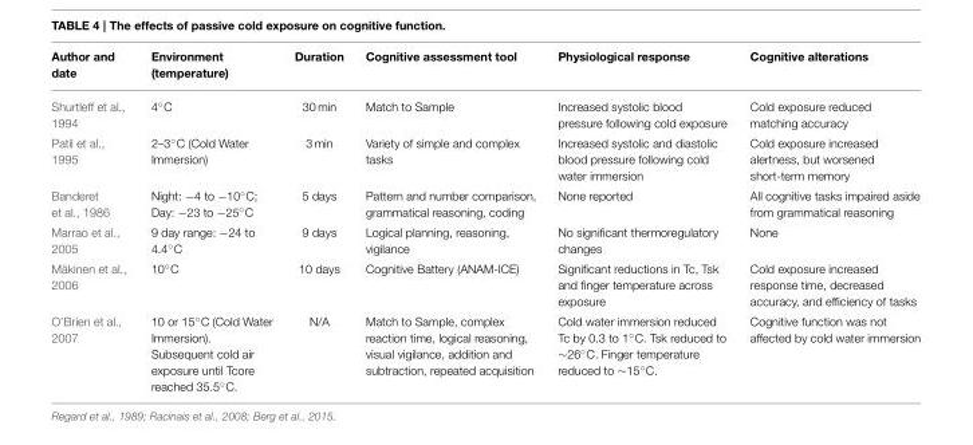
<table><thead><tr><td>Author and date</td><td>Environment (temperature)</td><td>Duration</td><td>Cognitive assessment tool</td><td>Physiological response</td><td>Cognitive alterations</td></tr></thead><tbody><tr><td>Shurtleff et al., 1994</td><td>4◦C</td><td>30 min</td><td>Match to Sample</td><td>Increased systolic blood pressure following cold exposure</td><td>Cold exposure reduced matching accuracy</td></tr><tr><td>Patil et al., 1995</td><td>2–3◦C (Cold Water Immersion)</td><td>3 min</td><td>Variety of simple and complex tasks</td><td>Increased systolic and diastolic blood pressure following cold water immersion</td><td>Cold exposure increased alertness, but worsened short-term memory</td></tr><tr><td>Banderet et al., 1986</td><td>Night: −4 to −10◦C; Day: −23 to −25◦C</td><td>5 days</td><td>Pattern and number comparison, grammatical reasoning, coding</td><td>None reported</td><td>All cognitive tasks impaired aside from grammatical reasoning</td></tr><tr><td>Marrao et al., 2005</td><td>9 day range: −24 to 4.4◦C</td><td>9 days</td><td>Logical planning, reasoning, vigilance</td><td>No significant thermoregulatory changes</td><td>None</td></tr><tr><td>Mäkinen et al., 2006</td><td>10◦C</td><td>10 days</td><td>Cognitive Battery (ANAM-ICE)</td><td>Significant reductions in Tc, Tsk and finger temperature across exposure</td><td>Cold exposure increased response time, decreased accuracy, and efficiency of tasks</td></tr><tr><td>O’Brien et al., 2007</td><td>10 or 15◦C (Cold Water Immersion). Subsequent cold air exposure until Tcore reached 35.5◦C.</td><td>N/A</td><td>Match to Sample, complex reaction time, logical reasoning, visual vigilance, addition and subtraction, repeated acquisition</td><td>Cold water immersion reduced Tc by 0.3 to 1◦C. Tsk reduced to ∼26◦C. Finger temperature reduced to ∼15◦C.</td><td>Cognitive function was not affected by cold water immersion</td></tr></tbody></table>